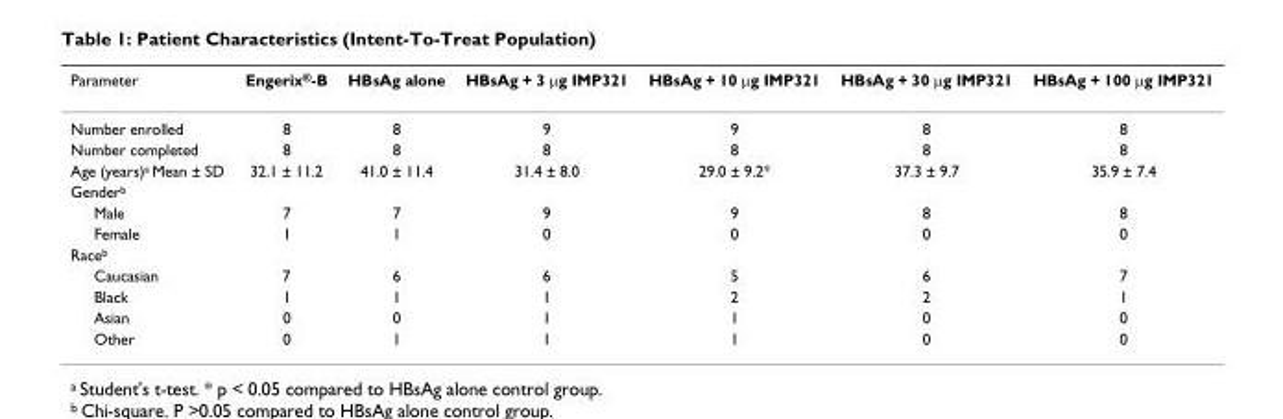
<table><thead><tr><td>Parameter</td><td>Engerix<sup>®</sup>-B</td><td>HBsAg alone</td><td>HBsAg + 3 μg IMP321</td><td>HBsAg + 10 μg IMP321</td><td>HBsAg + 30 μg IMP321</td><td>HBsAg + 100 μg IMP321</td></tr></thead><tbody><tr><td>Number enrolled</td><td>8</td><td>8</td><td>9</td><td>9</td><td>8</td><td>8</td></tr><tr><td>Number completed</td><td>8</td><td>8</td><td>8</td><td>8</td><td>8</td><td>8</td></tr><tr><td>Age (years)<sup>a</sup> Mean ± SD</td><td>32.1 ± 11.2</td><td>41.0 ± 11.4</td><td>31.4 ± 8.0</td><td>29.0 ± 9.2*</td><td>37.3 ± 9.7</td><td>35.9 ± 7.4</td></tr><tr><td colspan="7">Gender<sup>b</sup></td></tr><tr><td>Male</td><td>7</td><td>7</td><td>9</td><td>9</td><td>8</td><td>8</td></tr><tr><td>Female</td><td>1</td><td>1</td><td>0</td><td>0</td><td>0</td><td>0</td></tr><tr><td colspan="7">Race<sup>b</sup></td></tr><tr><td>Caucasian</td><td>7</td><td>6</td><td>6</td><td>5</td><td>6</td><td>7</td></tr><tr><td>Black</td><td>1</td><td>1</td><td>1</td><td>2</td><td>2</td><td>1</td></tr><tr><td>Asian</td><td>0</td><td>0</td><td>1</td><td>1</td><td>0</td><td>0</td></tr><tr><td>Other</td><td>0</td><td>1</td><td>1</td><td>1</td><td>0</td><td>0</td></tr></tbody></table>